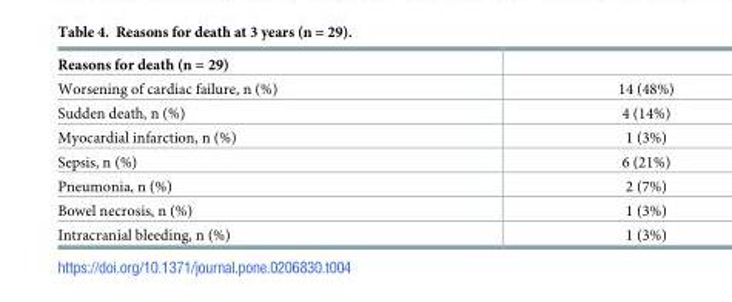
<table><thead><tr><td>Reasons for death (n = 29)</td><td></td></tr></thead><tbody><tr><td>Worsening of cardiac failure, n (%)</td><td>14 (48%)</td></tr><tr><td>Sudden death, n (%)</td><td>4 (14%)</td></tr><tr><td>Myocardial infarction, n (%)</td><td>1 (3%)</td></tr><tr><td>Sepsis, n (%)</td><td>6 (21%)</td></tr><tr><td>Pneumonia, n (%)</td><td>2 (7%)</td></tr><tr><td>Bowel necrosis, n (%)</td><td>1 (3%)</td></tr><tr><td>Intracranial bleeding, n (%)</td><td>1 (3%)</td></tr></tbody></table>